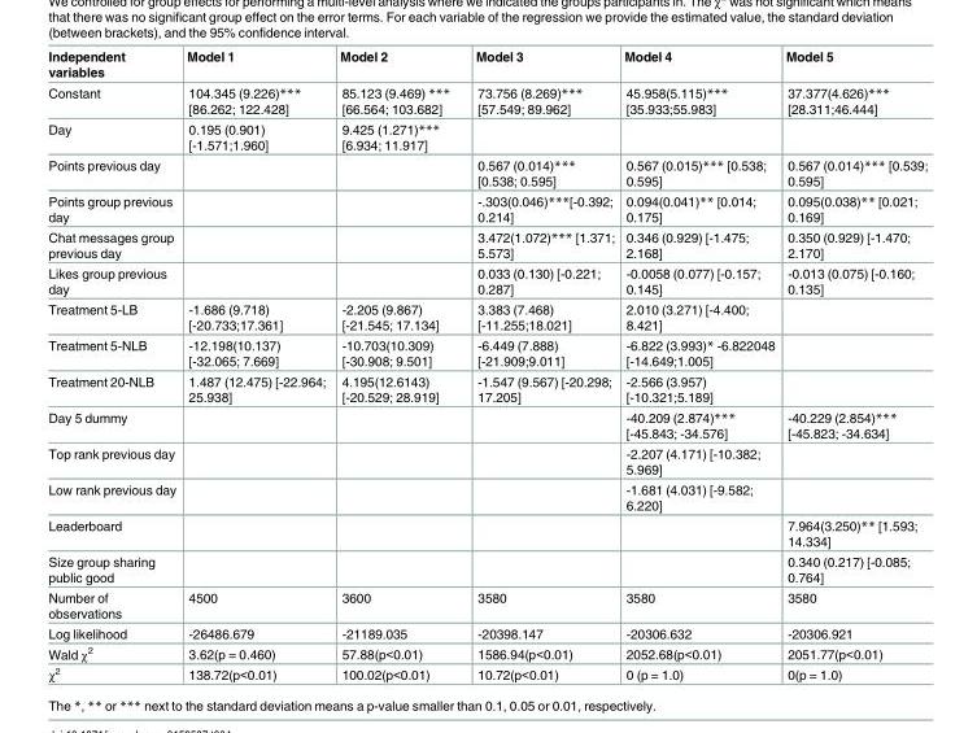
<table><thead><tr><td>Independent variables</td><td>Model 1</td><td>Model 2</td><td>Model 3</td><td>Model 4</td><td>Model 5</td></tr></thead><tbody><tr><td>Constant</td><td>104.345 (9.226)*** [86.262; 122.428]</td><td>85.123 (9.469) *** [66.564; 103.682]</td><td>73.756 (8.269)*** [57.549; 89.962]</td><td>45.958(5.115)*** [35.933;55.983]</td><td>37.377(4.626)*** [28.311;46.444]</td></tr><tr><td>Day</td><td>0.195 (0.901) [-1.571;1.960]</td><td>9.425 (1.271)*** [6.934; 11.917]</td><td></td><td></td><td></td></tr><tr><td>Points previous day</td><td></td><td></td><td>0.567 (0.014)*** [0.538; 0.595]</td><td>0.567 (0.015)*** [0.538; 0.595]</td><td>0.567 (0.014)*** [0.539; 0.595]</td></tr><tr><td>Points group previous day</td><td></td><td></td><td>-.303(0.046)***[-0.392; 0.214]</td><td>0.094(0.041)** [0.014; 0.175]</td><td>0.095(0.038)** [0.021; 0.169]</td></tr><tr><td>Chat messages group previous day</td><td></td><td></td><td>3.472(1.072)*** [1.371; 5.573]</td><td>0.346 (0.929) [-1.475; 2.168]</td><td>0.350 (0.929) [-1.470; 2.170]</td></tr><tr><td>Likes group previous day</td><td></td><td></td><td>0.033 (0.130) [-0.221; 0.287]</td><td>-0.0058 (0.077) [-0.157; 0.145]</td><td>-0.013 (0.075) [-0.160; 0.135]</td></tr><tr><td>Treatment 5-LB</td><td>-1.686 (9.718) [-20.733;17.361]</td><td>-2.205 (9.867) [-21.545; 17.134]</td><td>3.383 (7.468) [-11.255;18.021]</td><td>2.010 (3.271) [-4.400; 8.421]</td><td></td></tr><tr><td>Treatment 5-NLB</td><td>-12.198(10.137) [-32.065; 7.669]</td><td>-10.703(10.309) [-30.908; 9.501]</td><td>-6.449 (7.888) [-21.909;9.011]</td><td>-6.822 (3.993)* -6.822048 [-14.649;1.005]</td><td></td></tr><tr><td>Treatment 20-NLB</td><td>1.487 (12.475) [-22.964; 25.938]</td><td>4.195(12.6143) [-20.529; 28.919]</td><td>-1.547 (9.567) [-20.298; 17.205]</td><td>-2.566 (3.957) [-10.321;5.189]</td><td></td></tr><tr><td>Day 5 dummy</td><td></td><td></td><td></td><td>-40.209 (2.874)*** [-45.843; -34.576]</td><td>-40.229 (2.854)*** [-45.823; -34.634]</td></tr><tr><td>Top rank previous day</td><td></td><td></td><td></td><td>-2.207 (4.171) [-10.382; 5.969]</td><td></td></tr><tr><td>Low rank previous day</td><td></td><td></td><td></td><td>-1.681 (4.031) [-9.582; 6.220]</td><td></td></tr><tr><td>Leaderboard</td><td></td><td></td><td></td><td></td><td>7.964(3.250)** [1.593; 14.334]</td></tr><tr><td>Size group sharing public good</td><td></td><td></td><td></td><td></td><td>0.340 (0.217) [-0.085; 0.764]</td></tr><tr><td>Number of observations</td><td>4500</td><td>3600</td><td>3580</td><td>3580</td><td>3580</td></tr><tr><td>Log likelihood</td><td>-26486.679</td><td>-21189.035</td><td>-20398.147</td><td>-20306.632</td><td>-20306.921</td></tr><tr><td>Wald χ<sup>2</sup></td><td>3.62(p = 0.460)</td><td>57.88(p&lt;0.01)</td><td>1586.94(p&lt;0.01)</td><td>2052.68(p&lt;0.01)</td><td>2051.77(p&lt;0.01)</td></tr><tr><td>χ<sup>2</sup></td><td>138.72(p&lt;0.01)</td><td>100.02(p&lt;0.01)</td><td>10.72(p&lt;0.01)</td><td>0 (p = 1.0)</td><td>0(p = 1.0)</td></tr></tbody></table>